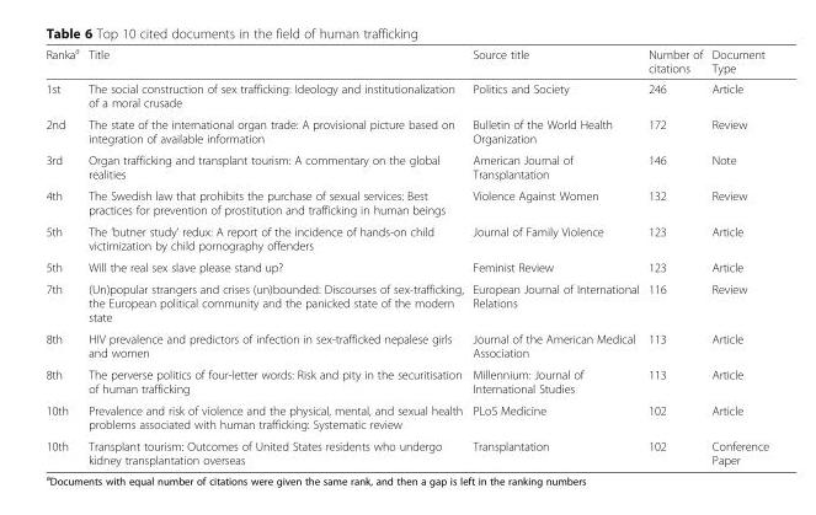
<table><thead><tr><td>Ranka<sup>a</sup></td><td>Title</td><td>Source title</td><td>Number of citations</td><td>Document Type</td></tr></thead><tbody><tr><td>1st</td><td>The social construction of sex trafficking: Ideology and institutionalization of a moral crusade</td><td>Politics and Society</td><td>246</td><td>Article</td></tr><tr><td>2nd</td><td>The state of the international organ trade: A provisional picture based on integration of available information</td><td>Bulletin of the World Health Organization</td><td>172</td><td>Review</td></tr><tr><td>3rd</td><td>Organ trafficking and transplant tourism: A commentary on the global realities</td><td>American Journal of Transplantation</td><td>146</td><td>Note</td></tr><tr><td>4th</td><td>The Swedish law that prohibits the purchase of sexual services: Best practices for prevention of prostitution and trafficking in human beings</td><td>Violence Against Women</td><td>132</td><td>Review</td></tr><tr><td>5th</td><td>The ‘butner study’ redux: A report of the incidence of hands-on child victimization by child pornography offenders</td><td>Journal of Family Violence</td><td>123</td><td>Article</td></tr><tr><td>5th</td><td>Will the real sex slave please stand up?</td><td>Feminist Review</td><td>123</td><td>Article</td></tr><tr><td>7th</td><td>(Un)popular strangers and crises (un)bounded: Discourses of sex-trafficking, the European political community and the panicked state of the modern state</td><td>European Journal of International Relations</td><td>116</td><td>Review</td></tr><tr><td>8th</td><td>HIV prevalence and predictors of infection in sex-trafficked nepalese girls and women</td><td>Journal of the American Medical Association</td><td>113</td><td>Article</td></tr><tr><td>8th</td><td>The perverse politics of four-letter words: Risk and pity in the securitisation of human trafficking</td><td>Millennium: Journal of International Studies</td><td>113</td><td>Article</td></tr><tr><td>10th</td><td>Prevalence and risk of violence and the physical, mental, and sexual health problems associated with human trafficking: Systematic review</td><td>PLoS Medicine</td><td>102</td><td>Article</td></tr><tr><td>10th</td><td>Transplant tourism: Outcomes of United States residents who undergo kidney transplantation overseas</td><td>Transplantation</td><td>102</td><td>Conference Paper</td></tr></tbody></table>